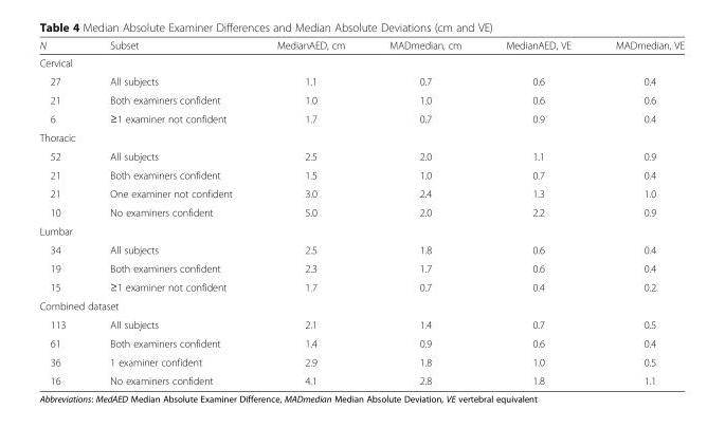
<table><thead><tr><td>N</td><td>Subset</td><td>MedianAED, cm</td><td>MADmedian, cm</td><td>MedianAED, VE</td><td>MADmedian, VE</td></tr></thead><tbody><tr><td colspan="6">Cervical</td></tr><tr><td>27</td><td>All subjects</td><td>1.1</td><td>0.7</td><td>0.6</td><td>0.4</td></tr><tr><td>21</td><td>Both examiners confident</td><td>1.0</td><td>1.0</td><td>0.6</td><td>0.6</td></tr><tr><td>6</td><td>≥1 examiner not confident</td><td>1.7</td><td>0.7</td><td>0.9</td><td>0.4</td></tr><tr><td colspan="6">Thoracic</td></tr><tr><td>52</td><td>All subjects</td><td>2.5</td><td>2.0</td><td>1.1</td><td>0.9</td></tr><tr><td>21</td><td>Both examiners confident</td><td>1.5</td><td>1.0</td><td>0.7</td><td>0.4</td></tr><tr><td>21</td><td>One examiner not confident</td><td>3.0</td><td>2.4</td><td>1.3</td><td>1.0</td></tr><tr><td>10</td><td>No examiners confident</td><td>5.0</td><td>2.0</td><td>2.2</td><td>0.9</td></tr><tr><td colspan="6">Lumbar</td></tr><tr><td>34</td><td>All subjects</td><td>2.5</td><td>1.8</td><td>0.6</td><td>0.4</td></tr><tr><td>19</td><td>Both examiners confident</td><td>2.3</td><td>1.7</td><td>0.6</td><td>0.4</td></tr><tr><td>15</td><td>≥1 examiner not confident</td><td>1.7</td><td>0.7</td><td>0.4</td><td>0.2</td></tr><tr><td colspan="6">Combined dataset</td></tr><tr><td>113</td><td>All subjects</td><td>2.1</td><td>1.4</td><td>0.7</td><td>0.5</td></tr><tr><td>61</td><td>Both examiners confident</td><td>1.4</td><td>0.9</td><td>0.6</td><td>0.4</td></tr><tr><td>36</td><td>1 examiner confident</td><td>2.9</td><td>1.8</td><td>1.0</td><td>0.5</td></tr><tr><td>16</td><td>No examiners confident</td><td>4.1</td><td>2.8</td><td>1.8</td><td>1.1</td></tr></tbody></table>